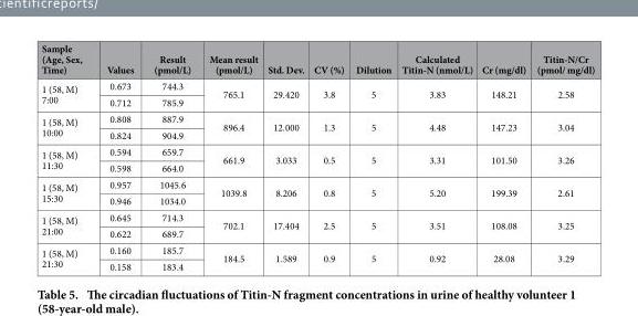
<table><thead><tr><td>Sample (Age, Sex, Time)</td><td>Values</td><td>Result (pmol/L)</td><td>Mean result (pmol/L)</td><td>Std. Dev.</td><td>CV (%)</td><td>Dilution</td><td>Calculated Titin-N (nmol/L)</td><td>Cr (mg/dl)</td><td>Titin-N/Cr (pmol/ mg/dl)</td></tr></thead><tbody><tr><td rowspan="2">1 (58, M) 7:00</td><td>0.673</td><td>744.3</td><td rowspan="2">765.1</td><td rowspan="2">29.420</td><td rowspan="2">3.8</td><td rowspan="2">5</td><td rowspan="2">3.83</td><td rowspan="2">148.21</td><td rowspan="2">2.58</td></tr><tr><td>0.712</td><td>785.9</td></tr><tr><td rowspan="2">1 (58, M) 10:00</td><td>0.808</td><td>887.9</td><td rowspan="2">896.4</td><td rowspan="2">12.000</td><td rowspan="2">1.3</td><td rowspan="2">5</td><td rowspan="2">4.48</td><td rowspan="2">147.23</td><td rowspan="2">3.04</td></tr><tr><td>0.824</td><td>904.9</td></tr><tr><td rowspan="2">1 (58, M) 11:30</td><td>0.594</td><td>659.7</td><td rowspan="2">661.9</td><td rowspan="2">3.033</td><td rowspan="2">0.5</td><td rowspan="2">5</td><td rowspan="2">3.31</td><td rowspan="2">101.50</td><td rowspan="2">3.26</td></tr><tr><td>0.598</td><td>664.0</td></tr><tr><td rowspan="2">1 (58, M) 15:30</td><td>0.957</td><td>1045.6</td><td rowspan="2">1039.8</td><td rowspan="2">8.206</td><td rowspan="2">0.8</td><td rowspan="2">5</td><td rowspan="2">5.20</td><td rowspan="2">199.39</td><td rowspan="2">2.61</td></tr><tr><td>0.946</td><td>1034.0</td></tr><tr><td rowspan="2">1 (58, M) 21:00</td><td>0.645</td><td>714.3</td><td rowspan="2">702.1</td><td rowspan="2">17.404</td><td rowspan="2">2.5</td><td rowspan="2">5</td><td rowspan="2">3.51</td><td rowspan="2">108.08</td><td rowspan="2">3.25</td></tr><tr><td>0.622</td><td>689.7</td></tr><tr><td rowspan="2">1 (58, M) 21:30</td><td>0.160</td><td>185.7</td><td rowspan="2">184.5</td><td rowspan="2">1.589</td><td rowspan="2">0.9</td><td rowspan="2">5</td><td rowspan="2">0.92</td><td rowspan="2">28.08</td><td rowspan="2">3.29</td></tr><tr><td>0.158</td><td>183.4</td></tr></tbody></table>